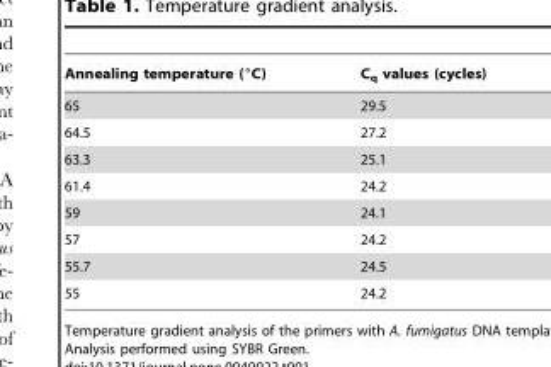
<table><thead><tr><td>Annealing temperature (°C)</td><td>C<sub>q</sub> values (cycles)</td></tr></thead><tbody><tr><td>65</td><td>29.5</td></tr><tr><td>64.5</td><td>27.2</td></tr><tr><td>63.3</td><td>25.1</td></tr><tr><td>61.4</td><td>24.2</td></tr><tr><td>59</td><td>24.1</td></tr><tr><td>57</td><td>24.2</td></tr><tr><td>55.7</td><td>24.5</td></tr><tr><td>55</td><td>24.2</td></tr></tbody></table>